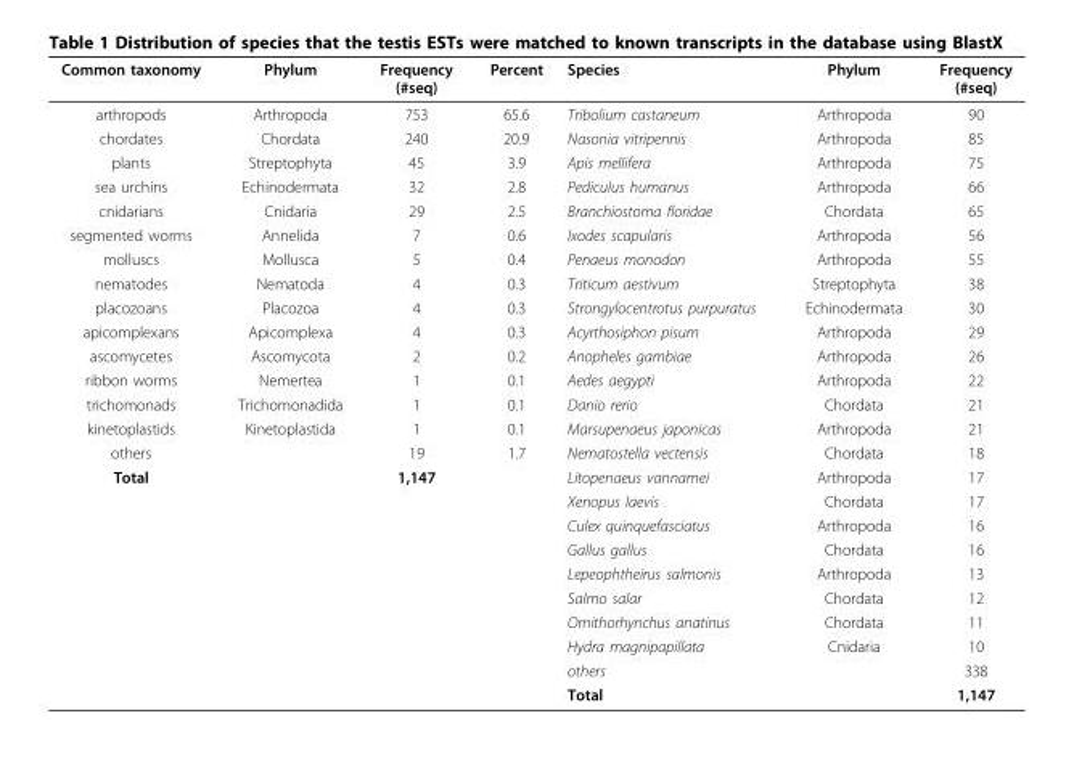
<table><tbody><tr><td>Common taxonomy</td><td>Phylum</td><td>Frequency (#seq)</td><td>Percent</td><td>Species</td><td>Phylum</td><td>Frequency (#seq)</td></tr><tr><td>arthropods</td><td>Arthropoda</td><td>753</td><td>65.6</td><td>Tribolium castaneum</td><td>Arthropoda</td><td>90</td></tr><tr><td>chordates</td><td>Chordata</td><td>240</td><td>20.9</td><td>Nasonia vitripennis</td><td>Arthropoda</td><td>85</td></tr><tr><td>plants</td><td>Streptophyta</td><td>45</td><td>3.9</td><td>Apis mellifera</td><td>Arthropoda</td><td>75</td></tr><tr><td>sea urchins</td><td>Echinodermata</td><td>32</td><td>2.8</td><td>Pediculus humanus</td><td>Arthropoda</td><td>66</td></tr><tr><td>cnidarians</td><td>Cnidaria</td><td>29</td><td>2.5</td><td>Branchiostoma floridae</td><td>Chordata</td><td>65</td></tr><tr><td>segmented worms</td><td>Annelida</td><td>7</td><td>0.6</td><td>Ixodes scapularis</td><td>Arthropoda</td><td>56</td></tr><tr><td>molluscs</td><td>Mollusca</td><td>5</td><td>0.4</td><td>Penaeus monodon</td><td>Arthropoda</td><td>55</td></tr><tr><td>nematodes</td><td>Nematoda</td><td>4</td><td>0.3</td><td>Triticum aestivum</td><td>Streptophyta</td><td>38</td></tr><tr><td>placozoans</td><td>Placozoa</td><td>4</td><td>0.3</td><td>Strongylocentrotus purpuratus</td><td>Echinodermata</td><td>30</td></tr><tr><td>apicomplexans</td><td>Apicomplexa</td><td>4</td><td>0.3</td><td>Acyrthosiphon pisum</td><td>Arthropoda</td><td>29</td></tr><tr><td>ascomycetes</td><td>Ascomycota</td><td>2</td><td>0.2</td><td>Anopheles gambiae</td><td>Arthropoda</td><td>26</td></tr><tr><td>ribbon worms</td><td>Nemertea</td><td>1</td><td>0.1</td><td>Aedes aegypti</td><td>Arthropoda</td><td>22</td></tr><tr><td>trichomonads</td><td>Trichomonadida</td><td>1</td><td>0.1</td><td>Danio rerio</td><td>Chordata</td><td>21</td></tr><tr><td>kinetoplastids</td><td>Kinetoplastida</td><td>1</td><td>0.1</td><td>Marsupenaeus japonicas</td><td>Arthropoda</td><td>21</td></tr><tr><td>others</td><td></td><td>19</td><td>1.7</td><td>Nematostella vectensis</td><td>Chordata</td><td>18</td></tr><tr><td rowspan="10">Total</td><td></td><td>1,147</td><td></td><td>Litopenaeus vannamei</td><td>Arthropoda</td><td>17</td></tr><tr><td></td><td></td><td></td><td>Xenopus laevis</td><td>Chordata</td><td>17</td></tr><tr><td></td><td></td><td></td><td>Culex quinquefasciatus</td><td>Arthropoda</td><td>16</td></tr><tr><td></td><td></td><td></td><td>Gallus gallus</td><td>Chordata</td><td>16</td></tr><tr><td></td><td></td><td></td><td>Lepeophtheirus salmonis</td><td>Arthropoda</td><td>13</td></tr><tr><td></td><td></td><td></td><td>Salmo salar</td><td>Chordata</td><td>12</td></tr><tr><td></td><td></td><td></td><td>Ornithorhynchus anatinus</td><td>Chordata</td><td>11</td></tr><tr><td></td><td></td><td></td><td>Hydra magnipapillata</td><td>Cnidaria</td><td>10</td></tr><tr><td></td><td></td><td></td><td>others</td><td></td><td>338</td></tr><tr><td></td><td></td><td></td><td>Total</td><td></td><td>1,147</td></tr></tbody></table>